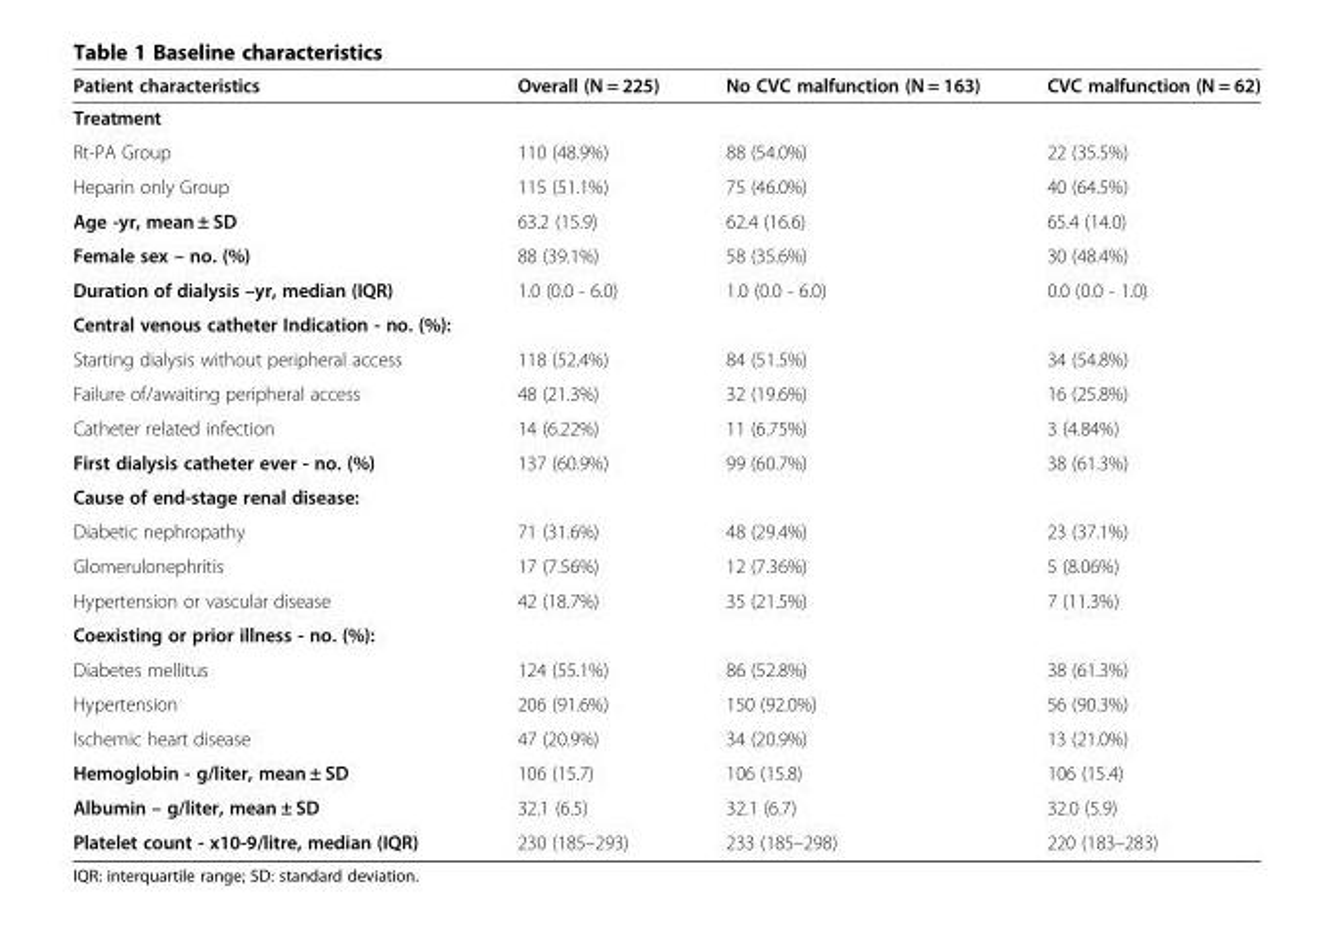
<table><thead><tr><td>Patient characteristics</td><td>Overall (N = 225)</td><td>No CVC malfunction (N = 163)</td><td>CVC malfunction (N = 62)</td></tr></thead><tbody><tr><td colspan="4">Treatment</td></tr><tr><td>Rt-PA Group</td><td>110 (48.9%)</td><td>88 (54.0%)</td><td>22 (35.5%)</td></tr><tr><td>Heparin only Group</td><td>115 (51.1%)</td><td>75 (46.0%)</td><td>40 (64.5%)</td></tr><tr><td>Age -yr, mean ± SD</td><td>63.2 (15.9)</td><td>62.4 (16.6)</td><td>65.4 (14.0)</td></tr><tr><td>Female sex – no. (%)</td><td>88 (39.1%)</td><td>58 (35.6%)</td><td>30 (48.4%)</td></tr><tr><td>Duration of dialysis –yr, median (IQR)</td><td>1.0 (0.0 - 6.0)</td><td>1.0 (0.0 - 6.0)</td><td>0.0 (0.0 - 1.0)</td></tr><tr><td colspan="4">Central venous catheter Indication - no. (%):</td></tr><tr><td>Starting dialysis without peripheral access</td><td>118 (52.4%)</td><td>84 (51.5%)</td><td>34 (54.8%)</td></tr><tr><td>Failure of/awaiting peripheral access</td><td>48 (21.3%)</td><td>32 (19.6%)</td><td>16 (25.8%)</td></tr><tr><td>Catheter related infection</td><td>14 (6.22%)</td><td>11 (6.75%)</td><td>3 (4.84%)</td></tr><tr><td>First dialysis catheter ever - no. (%)</td><td>137 (60.9%)</td><td>99 (60.7%)</td><td>38 (61.3%)</td></tr><tr><td colspan="4">Cause of end-stage renal disease:</td></tr><tr><td>Diabetic nephropathy</td><td>71 (31.6%)</td><td>48 (29.4%)</td><td>23 (37.1%)</td></tr><tr><td>Glomerulonephritis</td><td>17 (7.56%)</td><td>12 (7.36%)</td><td>5 (8.06%)</td></tr><tr><td>Hypertension or vascular disease</td><td>42 (18.7%)</td><td>35 (21.5%)</td><td>7 (11.3%)</td></tr><tr><td colspan="4">Coexisting or prior illness - no. (%):</td></tr><tr><td>Diabetes mellitus</td><td>124 (55.1%)</td><td>86 (52.8%)</td><td>38 (61.3%)</td></tr><tr><td>Hypertension</td><td>206 (91.6%)</td><td>150 (92.0%)</td><td>56 (90.3%)</td></tr><tr><td>Ischemic heart disease</td><td>47 (20.9%)</td><td>34 (20.9%)</td><td>13 (21.0%)</td></tr><tr><td>Hemoglobin - g/liter, mean ± SD</td><td>106 (15.7)</td><td>106 (15.8)</td><td>106 (15.4)</td></tr><tr><td>Albumin – g/liter, mean ± SD</td><td>32.1 (6.5)</td><td>32.1 (6.7)</td><td>32.0 (5.9)</td></tr><tr><td>Platelet count - x10-9/litre, median (IQR)</td><td>230 (185–293)</td><td>233 (185–298)</td><td>220 (183–283)</td></tr></tbody></table>